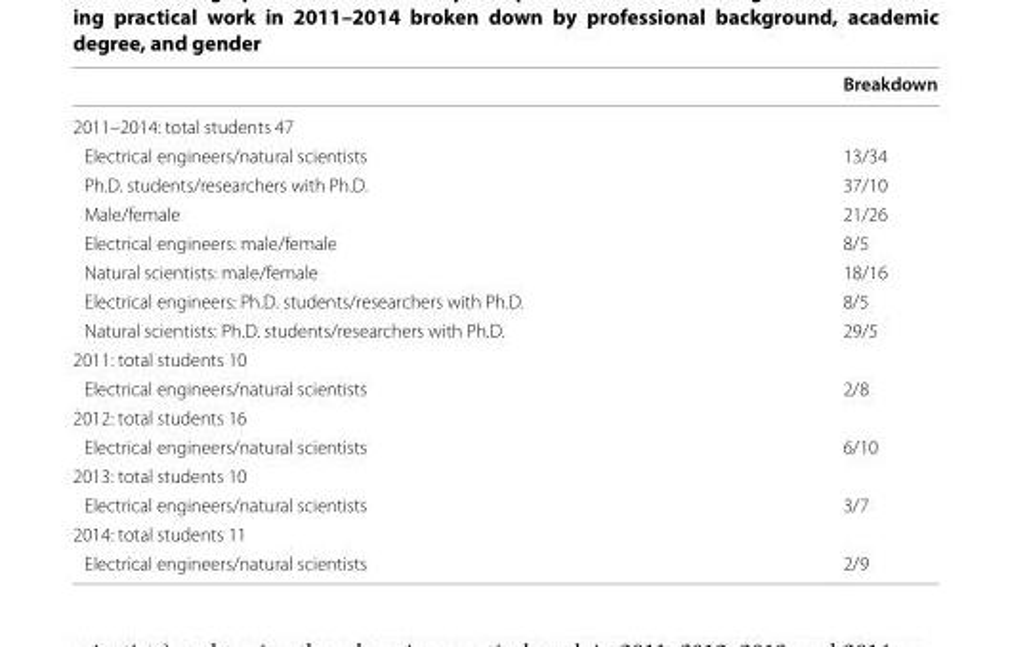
<table><thead><tr><td></td><td>Breakdown</td></tr></thead><tbody><tr><td colspan="2">2011–2014: total students 47</td></tr><tr><td>Electrical engineers/natural scientists</td><td>13/34</td></tr><tr><td>Ph.D. students/researchers with Ph.D.</td><td>37/10</td></tr><tr><td>Male/female</td><td>21/26</td></tr><tr><td>Electrical engineers: male/female</td><td>8/5</td></tr><tr><td>Natural scientists: male/female</td><td>18/16</td></tr><tr><td>Electrical engineers: Ph.D. students/researchers with Ph.D.</td><td>8/5</td></tr><tr><td>Natural scientists: Ph.D. students/researchers with Ph.D.</td><td>29/5</td></tr><tr><td colspan="2">2011: total students 10</td></tr><tr><td>Electrical engineers/natural scientists</td><td>2/8</td></tr><tr><td colspan="2">2012: total students 16</td></tr><tr><td>Electrical engineers/natural scientists</td><td>6/10</td></tr><tr><td colspan="2">2013: total students 10</td></tr><tr><td>Electrical engineers/natural scientists</td><td>3/7</td></tr><tr><td colspan="2">2014: total students 11</td></tr><tr><td>Electrical engineers/natural scientists</td><td>2/9</td></tr></tbody></table>